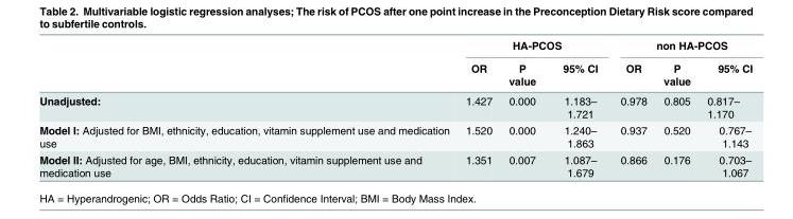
<table><thead><tr><td rowspan="2"></td><td colspan="3">HA-PCOS</td><td colspan="3">non HA-PCOS</td></tr><tr><td>OR</td><td>P value</td><td>95% CI</td><td>OR</td><td>P value</td><td>95% CI</td></tr></thead><tbody><tr><td>Unadjusted:</td><td>1.427</td><td>0.000</td><td>1.183– 1.721</td><td>0.978</td><td>0.805</td><td>0.817– 1.170</td></tr><tr><td>Model I: Adjusted for BMI, ethnicity, education, vitamin supplement use and medication use</td><td>1.520</td><td>0.000</td><td>1.240– 1.863</td><td>0.937</td><td>0.520</td><td>0.767– 1.143</td></tr><tr><td>Model II: Adjusted for age, BMI, ethnicity, education, vitamin supplement use and medication use</td><td>1.351</td><td>0.007</td><td>1.087– 1.679</td><td>0.866</td><td>0.176</td><td>0.703– 1.067</td></tr></tbody></table>